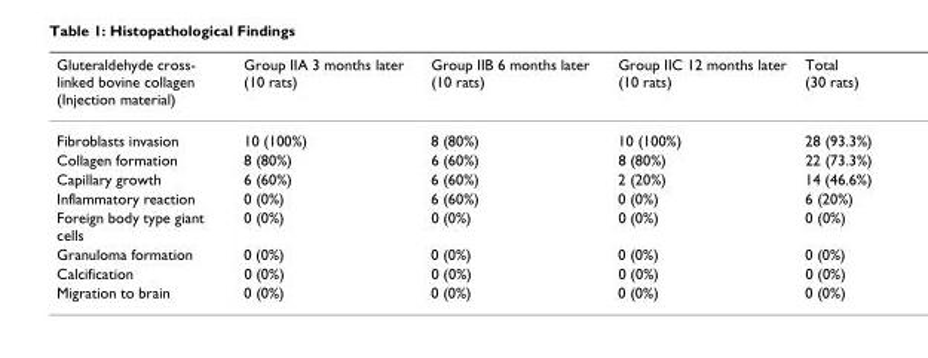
<table><thead><tr><td>Gluteraldehyde cross- linked bovine collagen (Injection material)</td><td>Group IIA 3 months later (10 rats)</td><td>Group IIB 6 months later (10 rats)</td><td>Group IIC 12 months later (10 rats)</td><td>Total (30 rats)</td></tr></thead><tbody><tr><td>Fibroblasts invasion</td><td>10 (100%)</td><td>8 (80%)</td><td>10 (100%)</td><td>28 (93.3%)</td></tr><tr><td>Collagen formation</td><td>8 (80%)</td><td>6 (60%)</td><td>8 (80%)</td><td>22 (73.3%)</td></tr><tr><td>Capillary growth</td><td>6 (60%)</td><td>6 (60%)</td><td>2 (20%)</td><td>14 (46.6%)</td></tr><tr><td>Inflammatory reaction</td><td>0 (0%)</td><td>6 (60%)</td><td>0 (0%)</td><td>6 (20%)</td></tr><tr><td>Foreign body type giant cells</td><td>0 (0%)</td><td>0 (0%)</td><td>0 (0%)</td><td>0 (0%)</td></tr><tr><td>Granuloma formation</td><td>0 (0%)</td><td>0 (0%)</td><td>0 (0%)</td><td>0 (0%)</td></tr><tr><td>Calcification</td><td>0 (0%)</td><td>0 (0%)</td><td>0 (0%)</td><td>0 (0%)</td></tr><tr><td>Migration to brain</td><td>0 (0%)</td><td>0 (0%)</td><td>0 (0%)</td><td>0 (0%)</td></tr></tbody></table>